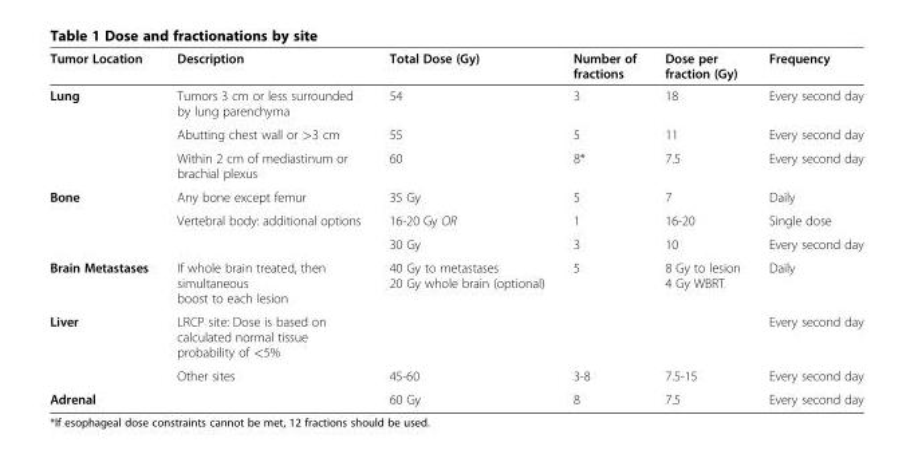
<table><thead><tr><td>Tumor Location</td><td>Description</td><td>Total Dose (Gy)</td><td>Number of fractions</td><td>Dose per fraction (Gy)</td><td>Frequency</td></tr></thead><tbody><tr><td rowspan="3">Lung</td><td>Tumors 3 cm or less surrounded by lung parenchyma</td><td>54</td><td>3</td><td>18</td><td>Every second day</td></tr><tr><td>Abutting chest wall or &gt;3 cm</td><td>55</td><td>5</td><td>11</td><td>Every second day</td></tr><tr><td>Within 2 cm of mediastinum or brachial plexus</td><td>60</td><td>8*</td><td>7.5</td><td>Every second day</td></tr><tr><td rowspan="3">Bone</td><td>Any bone except femur</td><td>35 Gy</td><td>5</td><td>7</td><td>Daily</td></tr><tr><td rowspan="2">Vertebral body: additional options</td><td>16-20 Gy OR</td><td>1</td><td>16-20</td><td>Single dose</td></tr><tr><td>30 Gy</td><td>3</td><td>10</td><td>Every second day</td></tr><tr><td>Brain Metastases</td><td>If whole brain treated, then simultaneous boost to each lesion</td><td>40 Gy to metastases 20 Gy whole brain (optional)</td><td>5</td><td>8 Gy to lesion 4 Gy WBRT</td><td>Daily</td></tr><tr><td rowspan="2">Liver</td><td>LRCP site: Dose is based on calculated normal tissue probability of &lt;5%</td><td></td><td></td><td></td><td>Every second day</td></tr><tr><td>Other sites</td><td>45-60</td><td>3-8</td><td>7.5-15</td><td>Every second day</td></tr><tr><td>Adrenal</td><td></td><td>60 Gy</td><td>8</td><td>7.5</td><td>Every second day</td></tr></tbody></table>